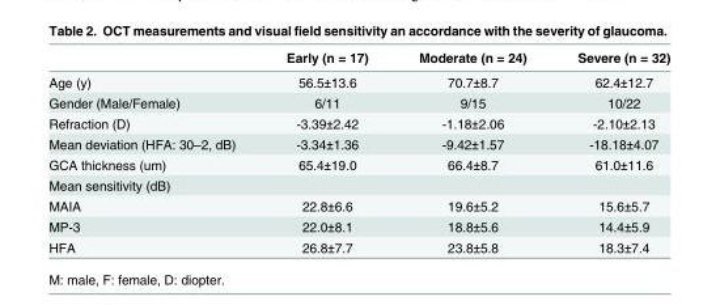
<table><thead><tr><td></td><td>Early (n = 17)</td><td>Moderate (n = 24)</td><td>Severe (n = 32)</td></tr></thead><tbody><tr><td>Age (y)</td><td>56.5±13.6</td><td>70.7±8.7</td><td>62.4±12.7</td></tr><tr><td>Gender (Male/Female)</td><td>6/11</td><td>9/15</td><td>10/22</td></tr><tr><td>Refraction (D)</td><td>-3.39±2.42</td><td>-1.18±2.06</td><td>-2.10±2.13</td></tr><tr><td>Mean deviation (HFA: 30–2, dB)</td><td>-3.34±1.36</td><td>-9.42±1.57</td><td>-18.18±4.07</td></tr><tr><td>GCA thickness (um)</td><td>65.4±19.0</td><td>66.4±8.7</td><td>61.0±11.6</td></tr><tr><td colspan="4">Mean sensitivity (dB)</td></tr><tr><td>MAIA</td><td>22.8±6.6</td><td>19.6±5.2</td><td>15.6±5.7</td></tr><tr><td>MP-3</td><td>22.0±8.1</td><td>18.8±5.6</td><td>14.4±5.9</td></tr><tr><td>HFA</td><td>26.8±7.7</td><td>23.8±5.8</td><td>18.3±7.4</td></tr></tbody></table>